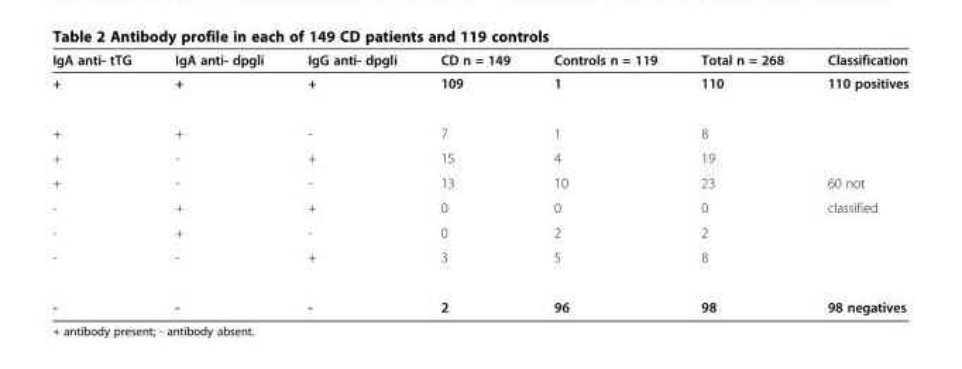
<table><thead><tr><td>IgA anti- tTG</td><td>IgA anti- dpgli</td><td>IgG anti- dpgli</td><td>CD n = 149</td><td>Controls n = 119</td><td>Total n = 268</td><td>Classification</td></tr></thead><tbody><tr><td>+</td><td>+</td><td>+</td><td>109</td><td>1</td><td>110</td><td>110 positives</td></tr><tr><td>+</td><td>+</td><td>-</td><td>7</td><td>1</td><td>8</td><td></td></tr><tr><td>+</td><td>-</td><td>+</td><td>15</td><td>4</td><td>19</td><td></td></tr><tr><td>+</td><td>-</td><td>-</td><td>13</td><td>10</td><td>23</td><td>60 not</td></tr><tr><td>-</td><td>+</td><td>+</td><td>0</td><td>0</td><td>0</td><td>classified</td></tr><tr><td>-</td><td>+</td><td>-</td><td>0</td><td>2</td><td>2</td><td></td></tr><tr><td>-</td><td>-</td><td>+</td><td>3</td><td>5</td><td>8</td><td></td></tr><tr><td>-</td><td>-</td><td>-</td><td>2</td><td>96</td><td>98</td><td>98 negatives</td></tr></tbody></table>